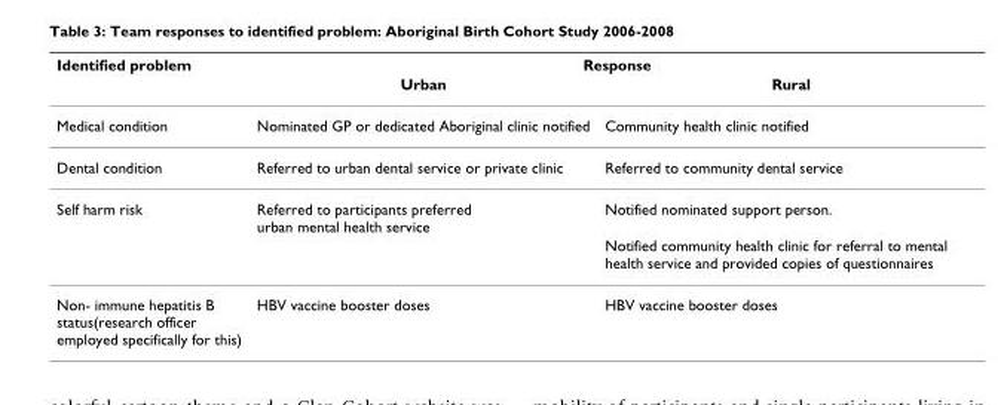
<table><thead><tr><td rowspan="2">Identified problem</td><td colspan="2">Response</td></tr><tr><td>Urban</td><td>Rural</td></tr></thead><tbody><tr><td>Medical condition</td><td>Nominated GP or dedicated Aboriginal clinic notified</td><td>Community health clinic notified</td></tr><tr><td>Dental condition</td><td>Referred to urban dental service or private clinic</td><td>Referred to community dental service</td></tr><tr><td rowspan="2">Self harm risk</td><td>Referred to participants preferred urban mental health service</td><td>Notified nominated support person.</td></tr><tr><td></td><td>Notified community health clinic for referral to mental health service and provided copies of questionnaires</td></tr><tr><td>Non- immune hepatitis B status(research officer employed specifically for this)</td><td>HBV vaccine booster doses</td><td>HBV vaccine booster doses</td></tr></tbody></table>